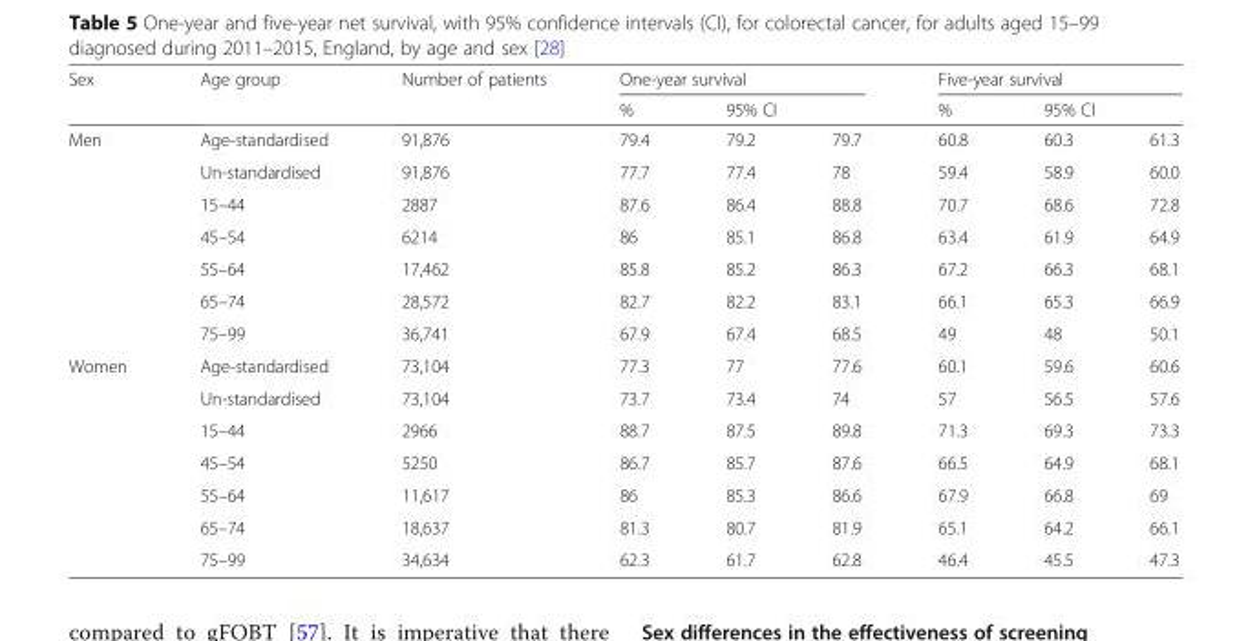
<table><thead><tr><td rowspan="3">Sex Men</td><td rowspan="3">Age group Age-standardised</td><td rowspan="3">Number of patients 91,876</td><td colspan="3">One-year survival</td><td colspan="3">Five-year survival</td></tr><tr><td rowspan="2">% 79.4</td><td colspan="2">95% CI</td><td rowspan="2">% 60.8</td><td colspan="2">95% CI</td></tr><tr><td>79.2</td><td>79.7</td><td>60.3</td><td>61.3</td></tr></thead><tbody><tr><td></td><td>Un-standardised</td><td>91,876</td><td>77.7</td><td>77.4</td><td>78</td><td>59.4</td><td>58.9</td><td>60.0</td></tr><tr><td></td><td>15–44</td><td>2887</td><td>87.6</td><td>86.4</td><td>88.8</td><td>70.7</td><td>68.6</td><td>72.8</td></tr><tr><td></td><td>45–54</td><td>6214</td><td>86</td><td>85.1</td><td>86.8</td><td>63.4</td><td>61.9</td><td>64.9</td></tr><tr><td></td><td>55–64</td><td>17,462</td><td>85.8</td><td>85.2</td><td>86.3</td><td>67.2</td><td>66.3</td><td>68.1</td></tr><tr><td></td><td>65–74</td><td>28,572</td><td>82.7</td><td>82.2</td><td>83.1</td><td>66.1</td><td>65.3</td><td>66.9</td></tr><tr><td></td><td>75–99</td><td>36,741</td><td>67.9</td><td>67.4</td><td>68.5</td><td>49</td><td>48</td><td>50.1</td></tr><tr><td rowspan="7">Women</td><td>Age-standardised</td><td>73,104</td><td>77.3</td><td>77</td><td>77.6</td><td>60.1</td><td>59.6</td><td>60.6</td></tr><tr><td>Un-standardised</td><td>73,104</td><td>73.7</td><td>73.4</td><td>74</td><td>57</td><td>56.5</td><td>57.6</td></tr><tr><td>15–44</td><td>2966</td><td>88.7</td><td>87.5</td><td>89.8</td><td>71.3</td><td>69.3</td><td>73.3</td></tr><tr><td>45–54</td><td>5250</td><td>86.7</td><td>85.7</td><td>87.6</td><td>66.5</td><td>64.9</td><td>68.1</td></tr><tr><td>55–64</td><td>11,617</td><td>86</td><td>85.3</td><td>86.6</td><td>67.9</td><td>66.8</td><td>69</td></tr><tr><td>65–74</td><td>18,637</td><td>81.3</td><td>80.7</td><td>81.9</td><td>65.1</td><td>64.2</td><td>66.1</td></tr><tr><td>75–99</td><td>34,634</td><td>62.3</td><td>61.7</td><td>62.8</td><td>46.4</td><td>45.5</td><td>47.3</td></tr></tbody></table>